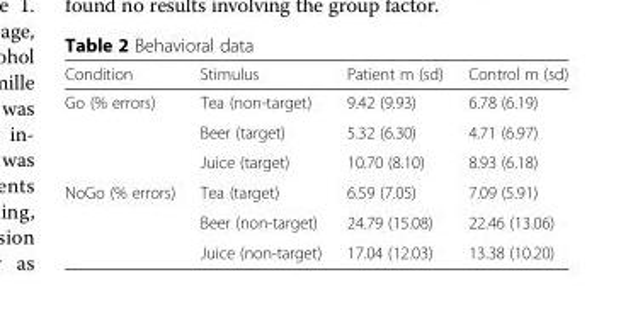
<table><thead><tr><td>Condition</td><td>Stimulus</td><td>Patient m (sd)</td><td>Control m (sd)</td></tr></thead><tbody><tr><td rowspan="3">Go (% errors)</td><td>Tea (non-target)</td><td>9.42 (9.93)</td><td>6.78 (6.19)</td></tr><tr><td>Beer (target)</td><td>5.32 (6.30)</td><td>4.71 (6.97)</td></tr><tr><td>Juice (target)</td><td>10.70 (8.10)</td><td>8.93 (6.18)</td></tr><tr><td rowspan="3">NoGo (% errors)</td><td>Tea (target)</td><td>6.59 (7.05)</td><td>7.09 (5.91)</td></tr><tr><td>Beer (non-target)</td><td>24.79 (15.08)</td><td>22.46 (13.06)</td></tr><tr><td>Juice (non-target)</td><td>17.04 (12.03)</td><td>13.38 (10.20)</td></tr></tbody></table>